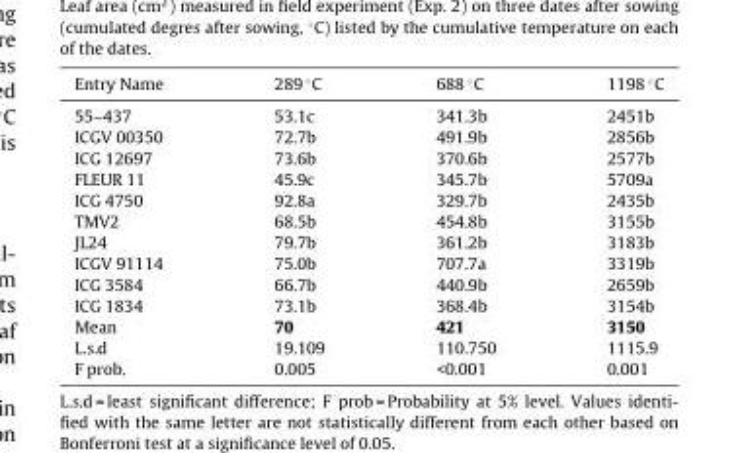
<table><thead><tr><td>Entry Name</td><td>289 ◦C</td><td>688 ◦C</td><td>1198 ◦C</td></tr></thead><tbody><tr><td>55–437</td><td>53.1c</td><td>341.3b</td><td>2451b</td></tr><tr><td>ICGV 00350</td><td>72.7b</td><td>491.9b</td><td>2856b</td></tr><tr><td>ICG 12697</td><td>73.6b</td><td>370.6b</td><td>2577b</td></tr><tr><td>FLEUR 11</td><td>45.9c</td><td>345.7b</td><td>5709a</td></tr><tr><td>ICG 4750</td><td>92.8a</td><td>329.7b</td><td>2435b</td></tr><tr><td>TMV2</td><td>68.5b</td><td>454.8b</td><td>3155b</td></tr><tr><td>JL24</td><td>79.7b</td><td>361.2b</td><td>3183b</td></tr><tr><td>ICGV 91114</td><td>75.0b</td><td>707.7a</td><td>3319b</td></tr><tr><td>ICG 3584</td><td>66.7b</td><td>440.9b</td><td>2659b</td></tr><tr><td>ICG 1834</td><td>73.1b</td><td>368.4b</td><td>3154b</td></tr><tr><td>Mean</td><td>70</td><td>421</td><td>3150</td></tr><tr><td>L.s.d</td><td>19.109</td><td>110.750</td><td>1115.9</td></tr><tr><td>F prob.</td><td>0.005</td><td>&lt;0.001</td><td>0.001</td></tr></tbody></table>